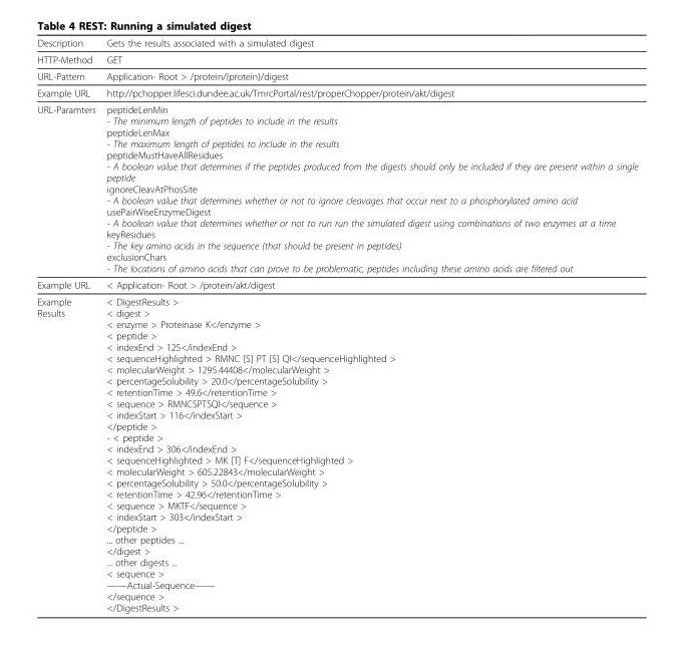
<table><thead><tr><td>Description</td><td>Gets the results associated with a simulated digest</td></tr></thead><tbody><tr><td>HTTP-Method</td><td>GET</td></tr><tr><td>URL-Pattern</td><td>Application- Root &gt; /protein/{protein}/digest</td></tr><tr><td>Example URL</td><td>http://pchopper.lifesci.dundee.ac.uk/TmrcPortal/rest/properChopper/protein/akt/digest</td></tr><tr><td>URL-Paramters</td><td>peptideLenMin - The minimum length of peptides to include in the results peptideLenMax - The maximum length of peptides to include in the results peptideMustHaveAllResidues - A boolean value that determines if the peptides produced from the digests should only be included if they are present within a single peptide ignoreCleavAtPhosSite - A boolean value that determines whether or not to ignore cleavages that occur next to a phosphorylated amino acid usePairWiseEnzymeDigest - A boolean value that determines whether or not to run run the simulated digest using combinations of two enzymes at a time keyResidues - The key amino acids in the sequence (that should be present in peptides) exclusionChars - The locations of amino acids that can prove to be problematic, peptides including these amino acids are filtered out</td></tr><tr><td>Example URL</td><td>&lt; Application- Root &gt; /protein/akt/digest</td></tr><tr><td>Example Results</td><td>&lt; DigestResults &gt; &lt; digest &gt; &lt; enzyme &gt; Proteinase K&lt;/enzyme &gt; &lt; peptide &gt; &lt; indexEnd &gt; 125&lt;/indexEnd &gt; &lt; sequenceHighlighted &gt; RMNC [S] PT [S] QI&lt;/sequenceHighlighted &gt; &lt; molecularWeight &gt; 1295.44408&lt;/molecularWeight &gt; &lt; percentageSolubility &gt; 20.0&lt;/percentageSolubility &gt; &lt; retentionTime &gt; 49.6&lt;/retentionTime &gt; &lt; sequence &gt; RMNCSPTSQI&lt;/sequence &gt; &lt; indexStart &gt; 116&lt;/indexStart &gt; &lt;/peptide &gt; - &lt; peptide &gt; &lt; indexEnd &gt; 306&lt;/indexEnd &gt; &lt; sequenceHighlighted &gt; MK [T] F&lt;/sequenceHighlighted &gt; &lt; molecularWeight &gt; 605.22843&lt;/molecularWeight &gt; &lt; percentageSolubility &gt; 50.0&lt;/percentageSolubility &gt; &lt; retentionTime &gt; 42.96&lt;/retentionTime &gt; &lt; sequence &gt; MKTF&lt;/sequence &gt; &lt; indexStart &gt; 303&lt;/indexStart &gt; &lt;/peptide &gt; ... other peptides ... &lt;/digest &gt; ... other digests ... &lt; sequence &gt; ——Actual-Sequence—— &lt;/sequence &gt; &lt;/DigestResults &gt;</td></tr></tbody></table>